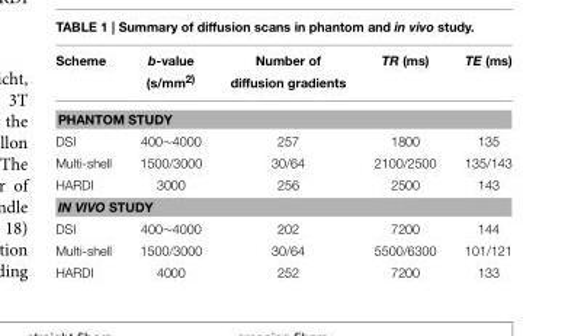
<table><thead><tr><td>Scheme</td><td>b-value (s/mm<sup>2</sup>)</td><td>Number of diffusion gradients</td><td>TR (ms)</td><td>TE (ms)</td></tr></thead><tbody><tr><td colspan="5">PHANTOM STUDY</td></tr><tr><td>DSI</td><td>400∼4000</td><td>257</td><td>1800</td><td>135</td></tr><tr><td>Multi-shell</td><td>1500/3000</td><td>30/64</td><td>2100/2500</td><td>135/143</td></tr><tr><td>HARDI</td><td>3000</td><td>256</td><td>2500</td><td>143</td></tr><tr><td colspan="5">IN VIVO STUDY</td></tr><tr><td>DSI</td><td>400∼4000</td><td>202</td><td>7200</td><td>144</td></tr><tr><td>Multi-shell</td><td>1500/3000</td><td>30/64</td><td>5500/6300</td><td>101/121</td></tr><tr><td>HARDI</td><td>4000</td><td>252</td><td>7200</td><td>133</td></tr></tbody></table>